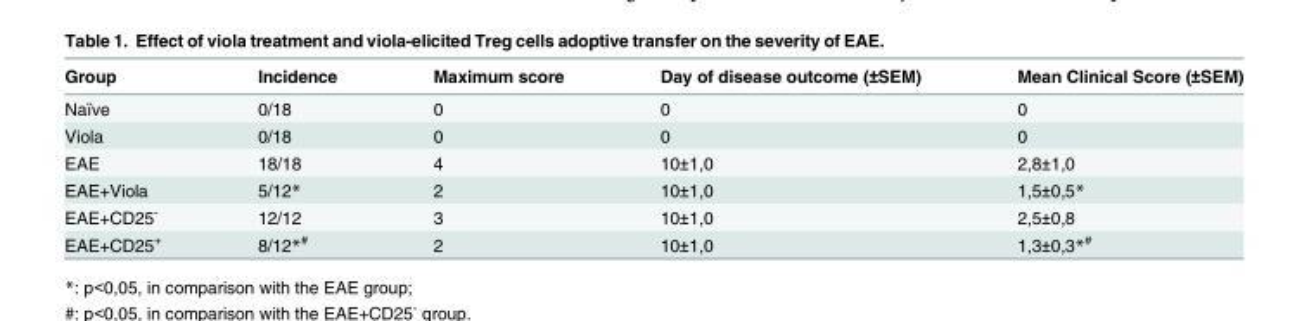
<table><thead><tr><td>Group</td><td>Incidence</td><td>Maximum score</td><td>Day of disease outcome (±SEM)</td><td>Mean Clinical Score (±SEM)</td></tr></thead><tbody><tr><td>Naïve</td><td>0/18</td><td>0</td><td>0</td><td>0</td></tr><tr><td>Viola</td><td>0/18</td><td>0</td><td>0</td><td>0</td></tr><tr><td>EAE</td><td>18/18</td><td>4</td><td>10±1,0</td><td>2,8±1,0</td></tr><tr><td>EAE+Viola</td><td>5/12*</td><td>2</td><td>10±1,0</td><td>1,5±0,5*</td></tr><tr><td>EAE+CD25<sup>-</sup></td><td>12/12</td><td>3</td><td>10±1,0</td><td>2,5±0,8</td></tr><tr><td>EAE+CD25<sup>+</sup></td><td>8/12*<sup>#</sup></td><td>2</td><td>10±1,0</td><td>1,3±0,3*<sup>#</sup></td></tr></tbody></table>